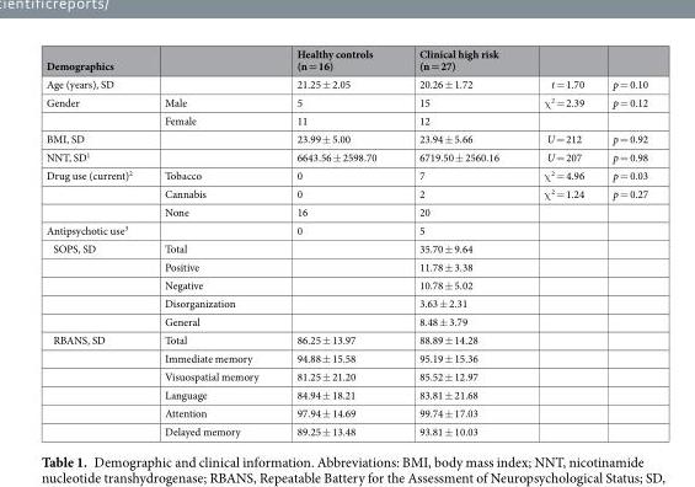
<table><thead><tr><td>Demographics</td><td></td><td>Healthy controls (n = 16)</td><td>Clinical high risk (n = 27)</td><td></td><td></td></tr></thead><tbody><tr><td>Age (years), SD</td><td></td><td>21.25 ± 2.05</td><td>20.26 ± 1.72</td><td>t = 1.70</td><td>p = 0.10</td></tr><tr><td rowspan="2">Gender</td><td>Male</td><td>5</td><td>15</td><td>χ<sup>2</sup> = 2.39</td><td>p = 0.12</td></tr><tr><td>Female</td><td>11</td><td>12</td><td></td><td></td></tr><tr><td>BMI, SD</td><td></td><td>23.99 ± 5.00</td><td>23.94 ± 5.66</td><td>U = 212</td><td>p = 0.92</td></tr><tr><td>NNT, SD<sup>1</sup></td><td></td><td>6643.56 ± 2598.70</td><td>6719.50 ± 2560.16</td><td>U = 207</td><td>p = 0.98</td></tr><tr><td rowspan="3">Drug use (current)<sup>2</sup></td><td>Tobacco</td><td>0</td><td>7</td><td>χ<sup>2</sup> = 4.96</td><td>p = 0.03</td></tr><tr><td>Cannabis</td><td>0</td><td>2</td><td>χ<sup>2</sup> = 1.24</td><td>p = 0.27</td></tr><tr><td>None</td><td>16</td><td>20</td><td></td><td></td></tr><tr><td>Antipsychotic use<sup>3</sup></td><td></td><td>0</td><td>5</td><td></td><td></td></tr><tr><td rowspan="5">SOPS, SD</td><td>Total</td><td></td><td>35.70 ± 9.64</td><td></td><td></td></tr><tr><td>Positive</td><td></td><td>11.78 ± 3.38</td><td></td><td></td></tr><tr><td>Negative</td><td></td><td>10.78 ± 5.02</td><td></td><td></td></tr><tr><td>Disorganization</td><td></td><td>3.63 ± 2.31</td><td></td><td></td></tr><tr><td>General</td><td></td><td>8.48 ± 3.79</td><td></td><td></td></tr><tr><td rowspan="6">RBANS, SD</td><td>Total</td><td>86.25 ± 13.97</td><td>88.89 ± 14.28</td><td></td><td></td></tr><tr><td>Immediate memory</td><td>94.88 ± 15.58</td><td>95.19 ± 15.36</td><td></td><td></td></tr><tr><td>Visuospatial memory</td><td>81.25 ± 21.20</td><td>85.52 ± 12.97</td><td></td><td></td></tr><tr><td>Language</td><td>84.94 ± 18.21</td><td>83.81 ± 21.68</td><td></td><td></td></tr><tr><td>Attention</td><td>97.94 ± 14.69</td><td>99.74 ± 17.03</td><td></td><td></td></tr><tr><td>Delayed memory</td><td>89.25 ± 13.48</td><td>93.81 ± 10.03</td><td></td><td></td></tr></tbody></table>